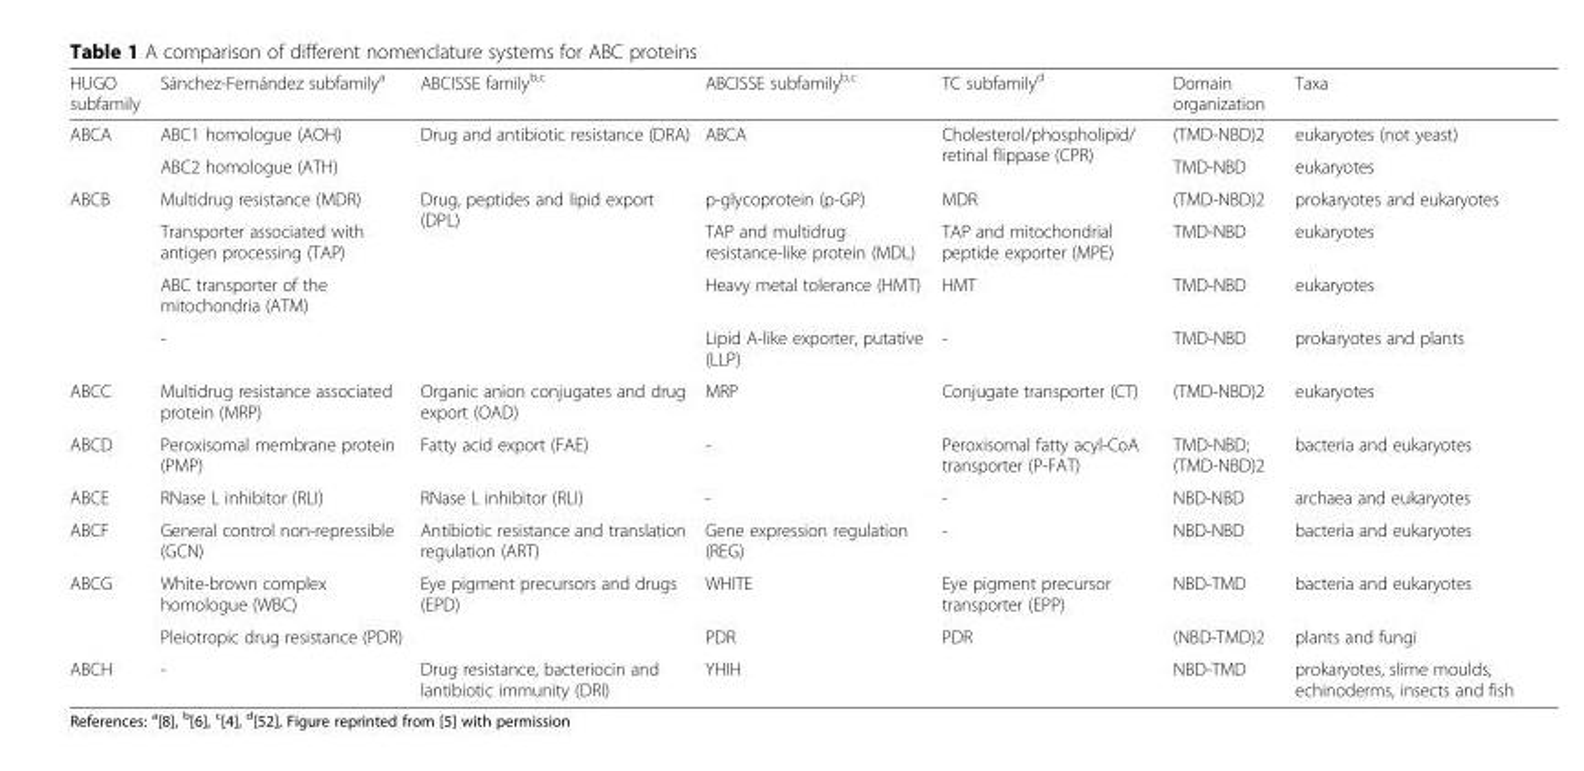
<table><thead><tr><td>HUGO subfamily</td><td>Sánchez-Fernández subfamily<sup>a</sup></td><td>ABCISSE family<sup>b,c</sup></td><td>ABCISSE subfamily<sup>b,c</sup></td><td>TC subfamily<sup>d</sup></td><td>Domain organization</td><td>Taxa</td></tr></thead><tbody><tr><td rowspan="2">ABCA</td><td>ABC1 homologue (AOH)</td><td rowspan="2">Drug and antibiotic resistance (DRA)</td><td rowspan="2">ABCA</td><td rowspan="2">Cholesterol/phospholipid/ retinal flippase (CPR)</td><td>(TMD-NBD)2</td><td>eukaryotes (not yeast)</td></tr><tr><td>ABC2 homologue (ATH)</td><td>TMD-NBD</td><td>eukaryotes</td></tr><tr><td rowspan="4">ABCB</td><td>Multidrug resistance (MDR)</td><td rowspan="4">Drug, peptides and lipid export (DPL)</td><td>p-glycoprotein (p-GP)</td><td>MDR</td><td>(TMD-NBD)2</td><td>prokaryotes and eukaryotes</td></tr><tr><td>Transporter associated with antigen processing (TAP)</td><td>TAP and multidrug resistance-like protein (MDL)</td><td>TAP and mitochondrial peptide exporter (MPE)</td><td>TMD-NBD</td><td>eukaryotes</td></tr><tr><td>ABC transporter of the mitochondria (ATM)</td><td>Heavy metal tolerance (HMT)</td><td>HMT</td><td>TMD-NBD</td><td>eukaryotes</td></tr><tr><td>-</td><td>Lipid A-like exporter, putative (LLP)</td><td>-</td><td>TMD-NBD</td><td>prokaryotes and plants</td></tr><tr><td>ABCC</td><td>Multidrug resistance associated protein (MRP)</td><td>Organic anion conjugates and drug export (OAD)</td><td>MRP</td><td>Conjugate transporter (CT)</td><td>(TMD-NBD)2</td><td>eukaryotes</td></tr><tr><td>ABCD</td><td>Peroxisomal membrane protein (PMP)</td><td>Fatty acid export (FAE)</td><td>-</td><td>Peroxisomal fatty acyl-CoA transporter (P-FAT)</td><td>TMD-NBD; (TMD-NBD)2</td><td>bacteria and eukaryotes</td></tr><tr><td>ABCE</td><td>RNase L inhibitor (RLI)</td><td>RNase L inhibitor (RLI)</td><td>-</td><td>-</td><td>NBD-NBD</td><td>archaea and eukaryotes</td></tr><tr><td>ABCF</td><td>General control non-repressible (GCN)</td><td>Antibiotic resistance and translation regulation (ART)</td><td>Gene expression regulation (REG)</td><td>-</td><td>NBD-NBD</td><td>bacteria and eukaryotes</td></tr><tr><td rowspan="2">ABCG</td><td>White-brown complex homologue (WBC)</td><td rowspan="2">Eye pigment precursors and drugs (EPD)</td><td>WHITE</td><td>Eye pigment precursor transporter (EPP)</td><td>NBD-TMD</td><td>bacteria and eukaryotes</td></tr><tr><td>Pleiotropic drug resistance (PDR)</td><td>PDR</td><td>PDR</td><td>(NBD-TMD)2</td><td>plants and fungi</td></tr><tr><td>ABCH</td><td>-</td><td>Drug resistance, bacteriocin and lantibiotic immunity (DRI)</td><td>YHIH</td><td></td><td>NBD-TMD</td><td>prokaryotes, slime moulds, echinoderms, insects and fish</td></tr></tbody></table>